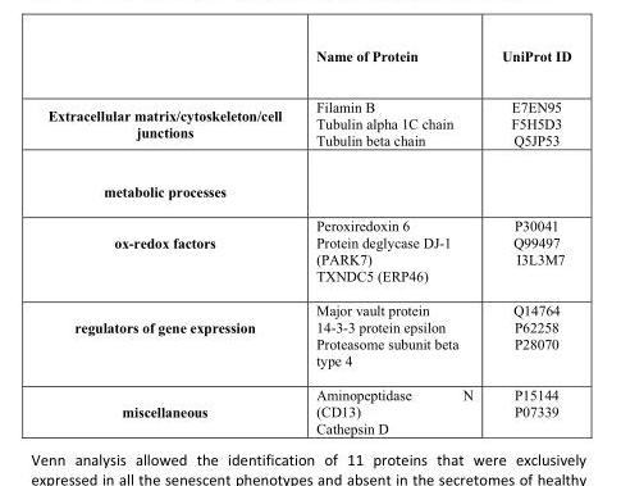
<table><thead><tr><td></td><td>Name of Protein</td><td>UniProt ID</td></tr></thead><tbody><tr><td>Extracellular matrix/cytoskeleton/cell junctions</td><td>Filamin B Tubulin alpha 1C chain Tubulin beta chain</td><td>E7EN95 F5H5D3 Q5JP53</td></tr><tr><td colspan="3">metabolic processes</td></tr><tr><td>ox-redox factors</td><td>Peroxiredoxin 6 Protein deglycase DJ-1 (PARK7) TXNDC5 (ERP46)</td><td>P30041 Q99497 I3L3M7</td></tr><tr><td>regulators of gene expression</td><td>Major vault protein 14-3-3 protein epsilon Proteasome subunit beta type 4</td><td>Q14764 P62258 P28070</td></tr><tr><td>miscellaneous</td><td>Aminopeptidase N (CD13) Cathepsin D</td><td>P15144 P07339</td></tr></tbody></table>